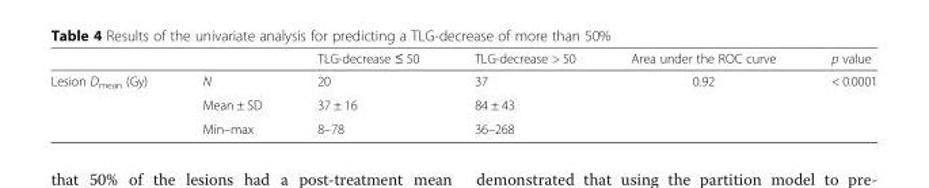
<table><thead><tr><td></td><td></td><td>TLG-decrease ≤ 50</td><td>TLG-decrease &gt; 50</td><td>Area under the ROC curve</td><td>p value</td></tr></thead><tbody><tr><td rowspan="3">Lesion D<sub>mean</sub> (Gy)</td><td>N</td><td>20</td><td>37</td><td rowspan="3">0.92</td><td rowspan="3">&lt; 0.0001</td></tr><tr><td>Mean ± SD</td><td>37 ± 16</td><td>84 ± 43</td></tr><tr><td>Min–max</td><td>8–78</td><td>36–268</td></tr></tbody></table>